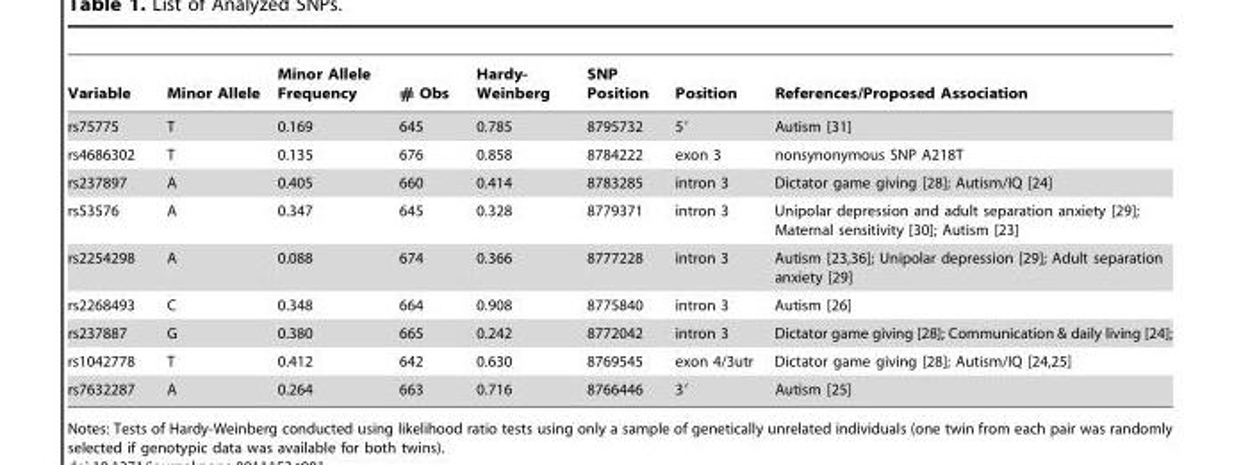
<table><thead><tr><td>Variable</td><td>Minor Allele</td><td>Minor Allele Frequency</td><td># Obs</td><td>Hardy- Weinberg</td><td>SNP Position</td><td>Position</td><td>References/Proposed Association</td></tr></thead><tbody><tr><td>rs75775</td><td>T</td><td>0.169</td><td>645</td><td>0.785</td><td>8795732</td><td>5′</td><td>Autism [31]</td></tr><tr><td>rs4686302</td><td>T</td><td>0.135</td><td>676</td><td>0.858</td><td>8784222</td><td>exon 3</td><td>nonsynonymous SNP A218T</td></tr><tr><td>rs237897</td><td>A</td><td>0.405</td><td>660</td><td>0.414</td><td>8783285</td><td>intron 3</td><td>Dictator game giving [28]; Autism/IQ [24]</td></tr><tr><td>rs53576</td><td>A</td><td>0.347</td><td>645</td><td>0.328</td><td>8779371</td><td>intron 3</td><td>Unipolar depression and adult separation anxiety [29]; Maternal sensitivity [30]; Autism [23]</td></tr><tr><td>rs2254298</td><td>A</td><td>0.088</td><td>674</td><td>0.366</td><td>8777228</td><td>intron 3</td><td>Autism [23,36]; Unipolar depression [29]; Adult separation anxiety [29]</td></tr><tr><td>rs2268493</td><td>C</td><td>0.348</td><td>664</td><td>0.908</td><td>8775840</td><td>intron 3</td><td>Autism [26]</td></tr><tr><td>rs237887</td><td>G</td><td>0.380</td><td>665</td><td>0.242</td><td>8772042</td><td>intron 3</td><td>Dictator game giving [28]; Communication &amp; daily living [24];</td></tr><tr><td>rs1042778</td><td>T</td><td>0.412</td><td>642</td><td>0.630</td><td>8769545</td><td>exon 4/3utr</td><td>Dictator game giving [28]; Autism/IQ [24,25]</td></tr><tr><td>rs7632287</td><td>A</td><td>0.264</td><td>663</td><td>0.716</td><td>8766446</td><td>3′</td><td>Autism [25]</td></tr></tbody></table>